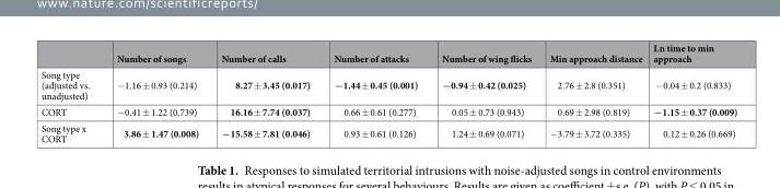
<table><thead><tr><td></td><td>Number of songs</td><td>Number of calls</td><td>Number of attacks</td><td>Number of wing flicks</td><td>Min approach distance</td><td>Ln time to min approach</td></tr></thead><tbody><tr><td>Song type (adjusted vs. unadjusted)</td><td>−1.16 ± 0.93 (0.214)</td><td>8.27 ± 3.45 (0.017)</td><td>−1.44 ± 0.45 (0.001)</td><td>−0.94 ± 0.42 (0.025)</td><td>2.76 ± 2.8 (0.351)</td><td>−0.04 ± 0.2 (0.833)</td></tr><tr><td>CORT</td><td>−0.41 ± 1.22 (0.739)</td><td>16.16 ± 7.74 (0.037)</td><td>0.66 ± 0.61 (0.277)</td><td>0.05 ± 0.73 (0.943)</td><td>0.69 ± 2.98 (0.819)</td><td>−1.15 ± 0.37 (0.009)</td></tr><tr><td>Song type x CORT</td><td>3.86 ± 1.47 (0.008)</td><td>−15.58 ± 7.81 (0.046)</td><td>0.93 ± 0.61 (0.126)</td><td>1.24 ± 0.69 (0.071)</td><td>−3.79 ± 3.72 (0.335)</td><td>0.12 ± 0.26 (0.669)</td></tr></tbody></table>